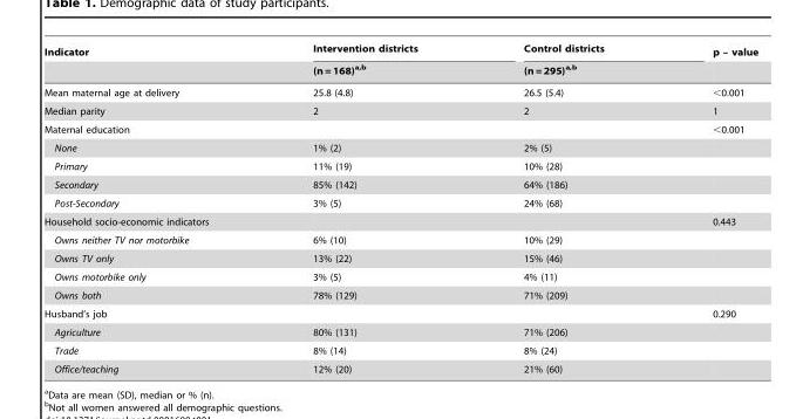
<table><thead><tr><td rowspan="2">Indicator</td><td rowspan="2">Intervention districts (n = 168)<sup>a,</sup>b</td><td rowspan="2">Control districts (n = 295)<sup>a,</sup>b</td><td rowspan="2">p – value</td></tr><tr></tr></thead><tbody><tr><td>Mean maternal age at delivery</td><td>25.8 (4.8)</td><td>26.5 (5.4)</td><td>&lt;0.001</td></tr><tr><td>Median parity</td><td>2</td><td>2</td><td>1</td></tr><tr><td>Maternal education</td><td></td><td></td><td>&lt;0.001</td></tr><tr><td>None</td><td>1% (2)</td><td>2% (5)</td><td></td></tr><tr><td>Primary</td><td>11% (19)</td><td>10% (28)</td><td></td></tr><tr><td>Secondary</td><td>85% (142)</td><td>64% (186)</td><td></td></tr><tr><td>Post-Secondary</td><td>3% (5)</td><td>24% (68)</td><td></td></tr><tr><td>Household socio-economic indicators</td><td></td><td></td><td>0.443</td></tr><tr><td>Owns neither TV nor motorbike</td><td>6% (10)</td><td>10% (29)</td><td></td></tr><tr><td>Owns TV only</td><td>13% (22)</td><td>15% (46)</td><td></td></tr><tr><td>Owns motorbike only</td><td>3% (5)</td><td>4% (11)</td><td></td></tr><tr><td>Owns both</td><td>78% (129)</td><td>71% (209)</td><td></td></tr><tr><td>Husband’s job</td><td></td><td></td><td>0.290</td></tr><tr><td>Agriculture</td><td>80% (131)</td><td>71% (206)</td><td></td></tr><tr><td>Trade</td><td>8% (14)</td><td>8% (24)</td><td></td></tr><tr><td>Office/teaching</td><td>12% (20)</td><td>21% (60)</td><td></td></tr></tbody></table>